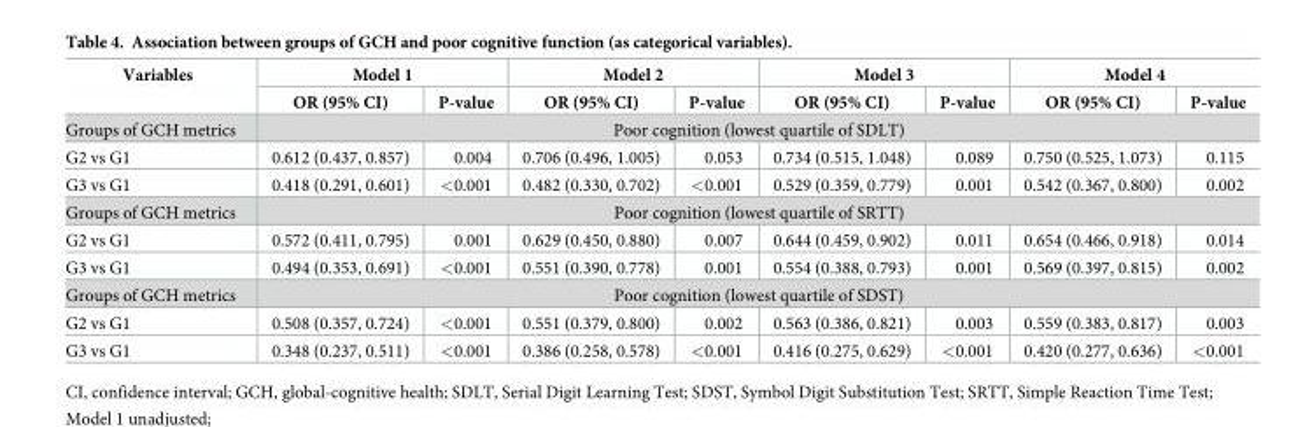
<table><thead><tr><td rowspan="2">Variables</td><td colspan="2">Model 1</td><td colspan="2">Model 2</td><td colspan="2">Model 3</td><td colspan="2">Model 4</td></tr><tr><td>OR (95% CI)</td><td>P-value</td><td>OR (95% CI)</td><td>P-value</td><td>OR (95% CI)</td><td>P-value</td><td>OR (95% CI)</td><td>P-value</td></tr></thead><tbody><tr><td>Groups of GCH metrics</td><td colspan="8">Poor cognition (lowest quartile of SDLT)</td></tr><tr><td>G2 vs G1</td><td>0.612 (0.437, 0.857)</td><td>0.004</td><td>0.706 (0.496, 1.005)</td><td>0.053</td><td>0.734 (0.515, 1.048)</td><td>0.089</td><td>0.750 (0.525, 1.073)</td><td>0.115</td></tr><tr><td>G3 vs G1</td><td>0.418 (0.291, 0.601)</td><td>&lt;0.001</td><td>0.482 (0.330, 0.702)</td><td>&lt;0.001</td><td>0.529 (0.359, 0.779)</td><td>0.001</td><td>0.542 (0.367, 0.800)</td><td>0.002</td></tr><tr><td>Groups of GCH metrics</td><td colspan="8">Poor cognition (lowest quartile of SRTT)</td></tr><tr><td>G2 vs G1</td><td>0.572 (0.411, 0.795)</td><td>0.001</td><td>0.629 (0.450, 0.880)</td><td>0.007</td><td>0.644 (0.459, 0.902)</td><td>0.011</td><td>0.654 (0.466, 0.918)</td><td>0.014</td></tr><tr><td>G3 vs G1</td><td>0.494 (0.353, 0.691)</td><td>&lt;0.001</td><td>0.551 (0.390, 0.778)</td><td>0.001</td><td>0.554 (0.388, 0.793)</td><td>0.001</td><td>0.569 (0.397, 0.815)</td><td>0.002</td></tr><tr><td>Groups of GCH metrics</td><td colspan="8">Poor cognition (lowest quartile of SDST)</td></tr><tr><td>G2 vs G1</td><td>0.508 (0.357, 0.724)</td><td>&lt;0.001</td><td>0.551 (0.379, 0.800)</td><td>0.002</td><td>0.563 (0.386, 0.821)</td><td>0.003</td><td>0.559 (0.383, 0.817)</td><td>0.003</td></tr><tr><td>G3 vs G1</td><td>0.348 (0.237, 0.511)</td><td>&lt;0.001</td><td>0.386 (0.258, 0.578)</td><td>&lt;0.001</td><td>0.416 (0.275, 0.629)</td><td>&lt;0.001</td><td>0.420 (0.277, 0.636)</td><td>&lt;0.001</td></tr></tbody></table>